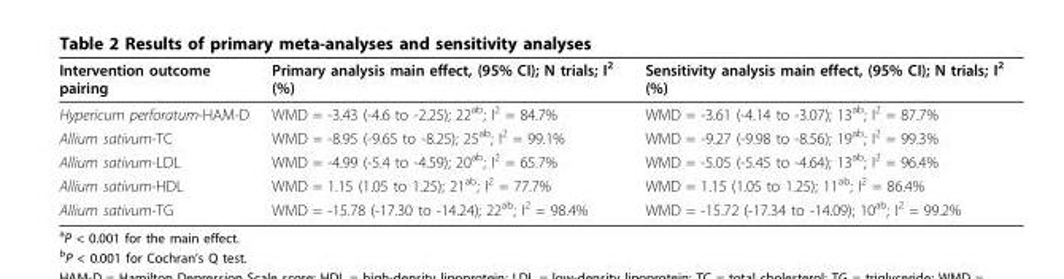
<table><thead><tr><td>Intervention outcome pairing</td><td>Primary analysis main effect, (95% CI); N trials; I<sup>2</sup> (%)</td><td>Sensitivity analysis main effect, (95% CI); N trials; I<sup>2</sup> (%)</td></tr></thead><tbody><tr><td>Hypericum perforatum-HAM-D</td><td>WMD = -3.43 (-4.6 to -2.25); 22<sup>ab</sup>; I<sup>2</sup> = 84.7%</td><td>WMD = -3.61 (-4.14 to -3.07); 13<sup>ab</sup>; I<sup>2</sup> = 87.7%</td></tr><tr><td>Allium sativum-TC</td><td>WMD = -8.95 (-9.65 to -8.25); 25<sup>ab</sup>; I<sup>2</sup> = 99.1%</td><td>WMD = -9.27 (-9.98 to -8.56); 19<sup>ab</sup>; I<sup>2</sup> = 99.3%</td></tr><tr><td>Allium sativum-LDL</td><td>WMD = -4.99 (-5.4 to -4.59); 20<sup>ab</sup>; I<sup>2</sup> = 65.7%</td><td>WMD = -5.05 (-5.45 to -4.64); 13<sup>ab</sup>; I<sup>2</sup> = 96.4%</td></tr><tr><td>Allium sativum-HDL</td><td>WMD = 1.15 (1.05 to 1.25); 21<sup>ab</sup>; I<sup>2</sup> = 77.7%</td><td>WMD = 1.15 (1.05 to 1.25); 11<sup>ab</sup>; I<sup>2</sup> = 86.4%</td></tr><tr><td>Allium sativum-TG</td><td>WMD = -15.78 (-17.30 to -14.24); 22<sup>ab</sup>; I<sup>2</sup> = 98.4%</td><td>WMD = -15.72 (-17.34 to -14.09); 10<sup>ab</sup>; I<sup>2</sup> = 99.2%</td></tr></tbody></table>